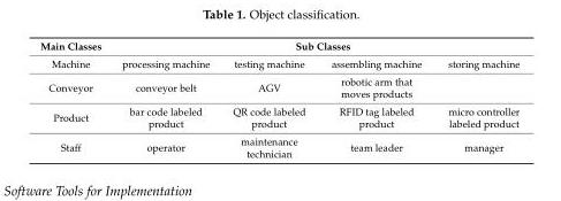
<table><thead><tr><td rowspan="2">Main Classes Machine</td><td colspan="4">Sub Classes</td></tr><tr><td>processing machine</td><td>testing machine</td><td>assembling machine</td><td>storing machine</td></tr></thead><tbody><tr><td>Conveyor</td><td>conveyor belt</td><td>AGV</td><td>robotic arm that moves products</td><td></td></tr><tr><td>Product</td><td>bar code labeled product</td><td>QR code labeled product</td><td>RFID tag labeled product</td><td>micro controller labeled product</td></tr><tr><td>Staff</td><td>operator</td><td>maintenance technician</td><td>team leader</td><td>manager</td></tr></tbody></table>